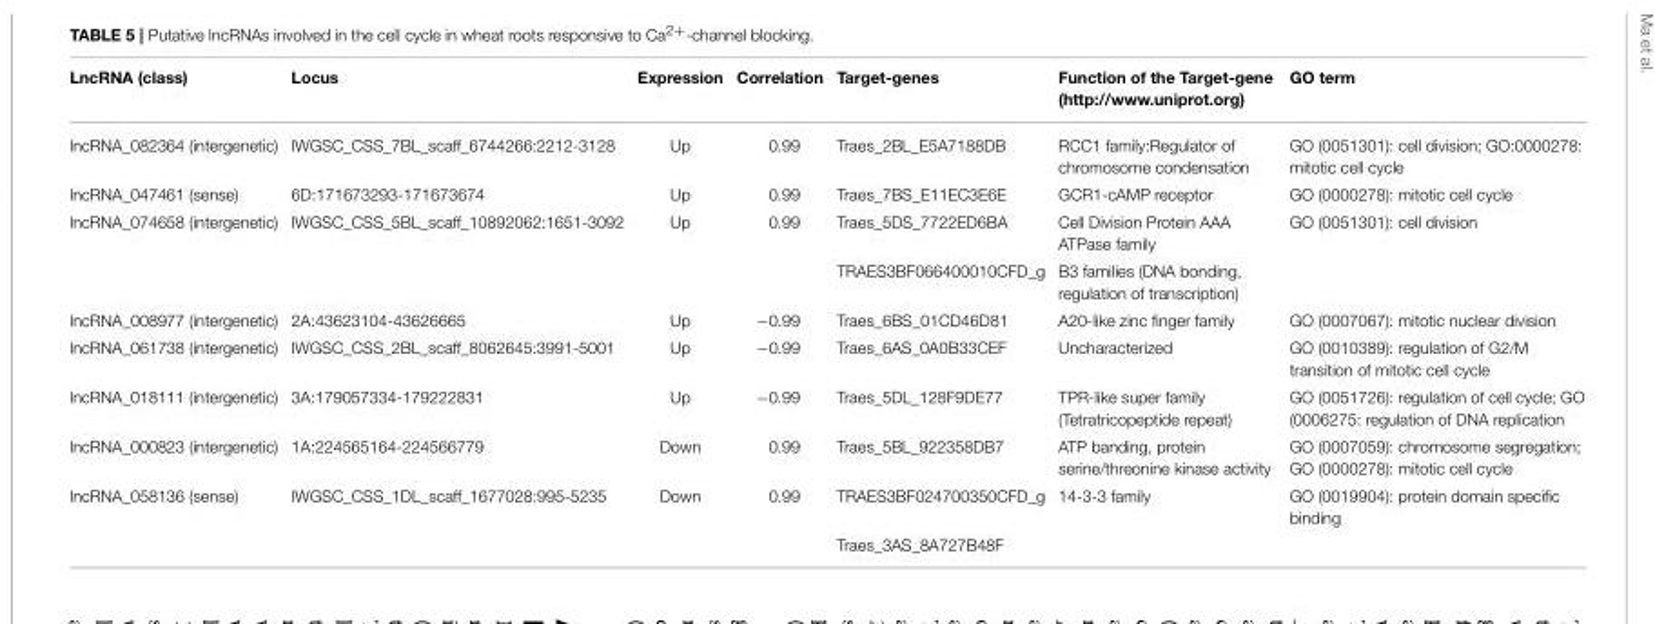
<table><thead><tr><td>LncRNA (class)</td><td>Locus</td><td>Expression</td><td>Correlation</td><td>Target-genes</td><td>Function of the Target-gene (http://www.uniprot.org)</td><td>GO term</td></tr></thead><tbody><tr><td>lncRNA_082364 (intergenetic)</td><td>IWGSC_CSS_7BL_scaff_6744266:2212-3128</td><td>Up</td><td>0.99</td><td>Traes_2BL_E5A7188DB</td><td>RCC1 family:Regulator of chromosome condensation</td><td>GO (0051301): cell division; GO:0000278: mitotic cell cycle</td></tr><tr><td>lncRNA_047461 (sense)</td><td>6D:171673293-171673674</td><td>Up</td><td>0.99</td><td>Traes_7BS_E11EC3E6E</td><td>GCR1-cAMP receptor</td><td>GO (0000278): mitotic cell cycle</td></tr><tr><td rowspan="2">lncRNA_074658 (intergenetic)</td><td>IWGSC_CSS_5BL_scaff_10892062:1651-3092</td><td>Up</td><td>0.99</td><td>Traes_5DS_7722ED6BA</td><td>Cell Division Protein AAA ATPase family</td><td>GO (0051301): cell division</td></tr><tr><td></td><td></td><td></td><td>TRAES3BF066400010CFD_g</td><td>B3 families (DNA bonding, regulation of transcription)</td><td></td></tr><tr><td>lncRNA_008977 (intergenetic)</td><td>2A:43623104-43626665</td><td>Up</td><td>−0.99</td><td>Traes_6BS_01CD46D81</td><td>A20-like zinc finger family</td><td>GO (0007067): mitotic nuclear division</td></tr><tr><td>lncRNA_061738 (intergenetic)</td><td>IWGSC_CSS_2BL_scaff_8062645:3991-5001</td><td>Up</td><td>−0.99</td><td>Traes_6AS_0A0B33CEF</td><td>Uncharacterized</td><td>GO (0010389): regulation of G2/M transition of mitotic cell cycle</td></tr><tr><td>lncRNA_018111 (intergenetic)</td><td>3A:179057334-179222831</td><td>Up</td><td>−0.99</td><td>Traes_5DL_128F9DE77</td><td>TPR-like super family (Tetratricopeptide repeat)</td><td>GO (0051726): regulation of cell cycle; GO (0006275: regulation of DNA replication</td></tr><tr><td>lncRNA_000823 (intergenetic)</td><td>1A:224565164-224566779</td><td>Down</td><td>0.99</td><td>Traes_5BL_922358DB7</td><td>ATP banding, protein serine/threonine kinase activity</td><td>GO (0007059): chromosome segregation; GO (0000278): mitotic cell cycle</td></tr><tr><td rowspan="2">lncRNA_058136 (sense)</td><td>IWGSC_CSS_1DL_scaff_1677028:995-5235</td><td>Down</td><td>0.99</td><td>TRAES3BF024700350CFD_g</td><td>14-3-3 family</td><td>GO (0019904): protein domain specific binding</td></tr><tr><td></td><td></td><td></td><td>Traes_3AS_8A727B48F</td><td></td><td></td></tr></tbody></table>